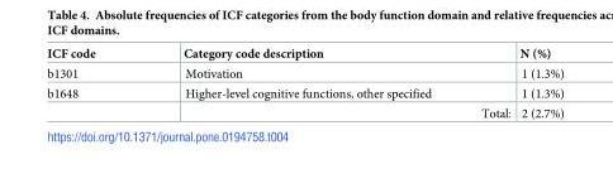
<table><thead><tr><td>ICF code</td><td>Category code description</td><td>N (%)</td></tr></thead><tbody><tr><td>b1301</td><td>Motivation</td><td>1 (1.3%)</td></tr><tr><td rowspan="2">b1648</td><td>Higher-level cognitive functions, other specified</td><td>1 (1.3%)</td></tr><tr><td>Total:</td><td>2 (2.7%)</td></tr></tbody></table>